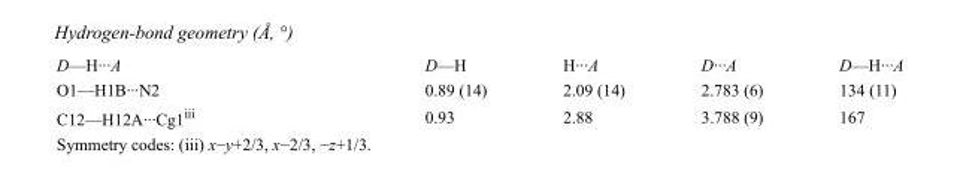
<table><tbody><tr><td>D—H···A</td><td>D—H</td><td>H···A</td><td>D···A</td><td>D—H···A</td></tr><tr><td>O1—H1B···N2</td><td>0.89 (14)</td><td>2.09 (14)</td><td>2.783 (6)</td><td>134 (11)</td></tr><tr><td>C12—H12A···Cg1<sup>iii</sup></td><td>0.93</td><td>2.88</td><td>3.788 (9)</td><td>167</td></tr></tbody></table>